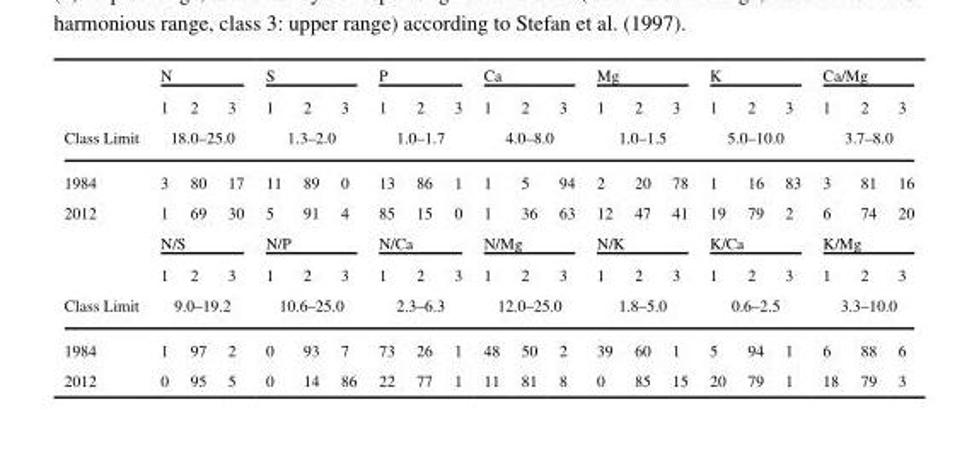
<table><tbody><tr><td rowspan="3">Class Limit</td><td colspan="3">N</td><td colspan="3">S</td><td colspan="3">P</td><td colspan="3">Ca</td><td colspan="3">Mg</td><td colspan="3">K</td><td colspan="3">Ca/Mg</td></tr><tr><td>1</td><td>2</td><td>3</td><td>1</td><td>2</td><td>3</td><td>1</td><td>2</td><td>3</td><td>1</td><td>2</td><td>3</td><td>1</td><td>2</td><td>3</td><td>1</td><td>2</td><td>3</td><td>1</td><td>2</td><td>3</td></tr><tr><td colspan="3">18.0–25.0</td><td colspan="3">1.3–2.0</td><td colspan="3">1.0–1.7</td><td colspan="3">4.0–8.0</td><td colspan="3">1.0–1.5</td><td colspan="3">5.0–10.0</td><td colspan="3">3.7–8.0</td></tr><tr><td>1984</td><td>3</td><td>80</td><td>17</td><td>11</td><td>89</td><td>0</td><td>13</td><td>86</td><td>1</td><td>1</td><td>5</td><td>94</td><td>2</td><td>20</td><td>78</td><td>1</td><td>16</td><td>83</td><td>3</td><td>81</td><td>16</td></tr><tr><td>2012</td><td>1</td><td>69</td><td>30</td><td>5</td><td>91</td><td>4</td><td>85</td><td>15</td><td>0</td><td>1</td><td>36</td><td>63</td><td>12</td><td>47</td><td>41</td><td>19</td><td>79</td><td>2</td><td>6</td><td>74</td><td>20</td></tr><tr><td rowspan="3">Class Limit</td><td colspan="3">N/S</td><td colspan="3">N/P</td><td colspan="3">N/Ca</td><td colspan="3">N/Mg</td><td colspan="3">N/K</td><td colspan="3">K/Ca</td><td colspan="3">K/Mg</td></tr><tr><td>1</td><td>2</td><td>3</td><td>1</td><td>2</td><td>3</td><td>1</td><td>2</td><td>3</td><td>1</td><td>2</td><td>3</td><td>1</td><td>2</td><td>3</td><td>1</td><td>2</td><td>3</td><td>1</td><td>2</td><td>3</td></tr><tr><td colspan="3">9.0–19.2</td><td colspan="3">10.6–25.0</td><td colspan="3">2.3–6.3</td><td colspan="3">12.0–25.0</td><td colspan="3">1.8–5.0</td><td colspan="3">0.6–2.5</td><td colspan="3">3.3–10.0</td></tr><tr><td>1984</td><td>1</td><td>97</td><td>2</td><td>0</td><td>93</td><td>7</td><td>73</td><td>26</td><td>1</td><td>48</td><td>50</td><td>2</td><td>39</td><td>60</td><td>1</td><td>5</td><td>94</td><td>1</td><td>6</td><td>88</td><td>6</td></tr><tr><td>2012</td><td>0</td><td>95</td><td>5</td><td>0</td><td>14</td><td>86</td><td>22</td><td>77</td><td>1</td><td>11</td><td>81</td><td>8</td><td>0</td><td>85</td><td>15</td><td>20</td><td>79</td><td>1</td><td>18</td><td>79</td><td>3</td></tr></tbody></table>